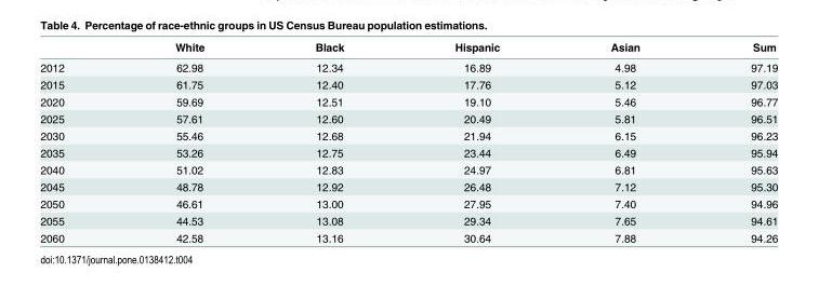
<table><thead><tr><td></td><td>White</td><td>Black</td><td>Hispanic</td><td>Asian</td><td>Sum</td></tr></thead><tbody><tr><td>2012</td><td>62.98</td><td>12.34</td><td>16.89</td><td>4.98</td><td>97.19</td></tr><tr><td>2015</td><td>61.75</td><td>12.40</td><td>17.76</td><td>5.12</td><td>97.03</td></tr><tr><td>2020</td><td>59.69</td><td>12.51</td><td>19.10</td><td>5.46</td><td>96.77</td></tr><tr><td>2025</td><td>57.61</td><td>12.60</td><td>20.49</td><td>5.81</td><td>96.51</td></tr><tr><td>2030</td><td>55.46</td><td>12.68</td><td>21.94</td><td>6.15</td><td>96.23</td></tr><tr><td>2035</td><td>53.26</td><td>12.75</td><td>23.44</td><td>6.49</td><td>95.94</td></tr><tr><td>2040</td><td>51.02</td><td>12.83</td><td>24.97</td><td>6.81</td><td>95.63</td></tr><tr><td>2045</td><td>48.78</td><td>12.92</td><td>26.48</td><td>7.12</td><td>95.30</td></tr><tr><td>2050</td><td>46.61</td><td>13.00</td><td>27.95</td><td>7.40</td><td>94.96</td></tr><tr><td>2055</td><td>44.53</td><td>13.08</td><td>29.34</td><td>7.65</td><td>94.61</td></tr><tr><td>2060</td><td>42.58</td><td>13.16</td><td>30.64</td><td>7.88</td><td>94.26</td></tr></tbody></table>